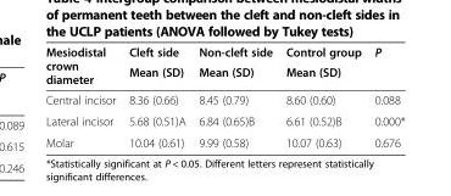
<table><thead><tr><td rowspan="2">Mesiodistal crown diameter</td><td rowspan="2">Cleft side Mean (SD)</td><td rowspan="2">Non-cleft side Mean (SD)</td><td rowspan="2">Control group Mean (SD)</td><td rowspan="2">P</td></tr><tr></tr></thead><tbody><tr><td>Central incisor</td><td>8.36 (0.66)</td><td>8.45 (0.79)</td><td>8.60 (0.60)</td><td>0.088</td></tr><tr><td>Lateral incisor</td><td>5.68 (0.51)A</td><td>6.84 (0.65)B</td><td>6.61 (0.52)B</td><td>0.000*</td></tr><tr><td>Molar</td><td>10.04 (0.61)</td><td>9.99 (0.58)</td><td>10.07 (0.63)</td><td>0.676</td></tr></tbody></table>